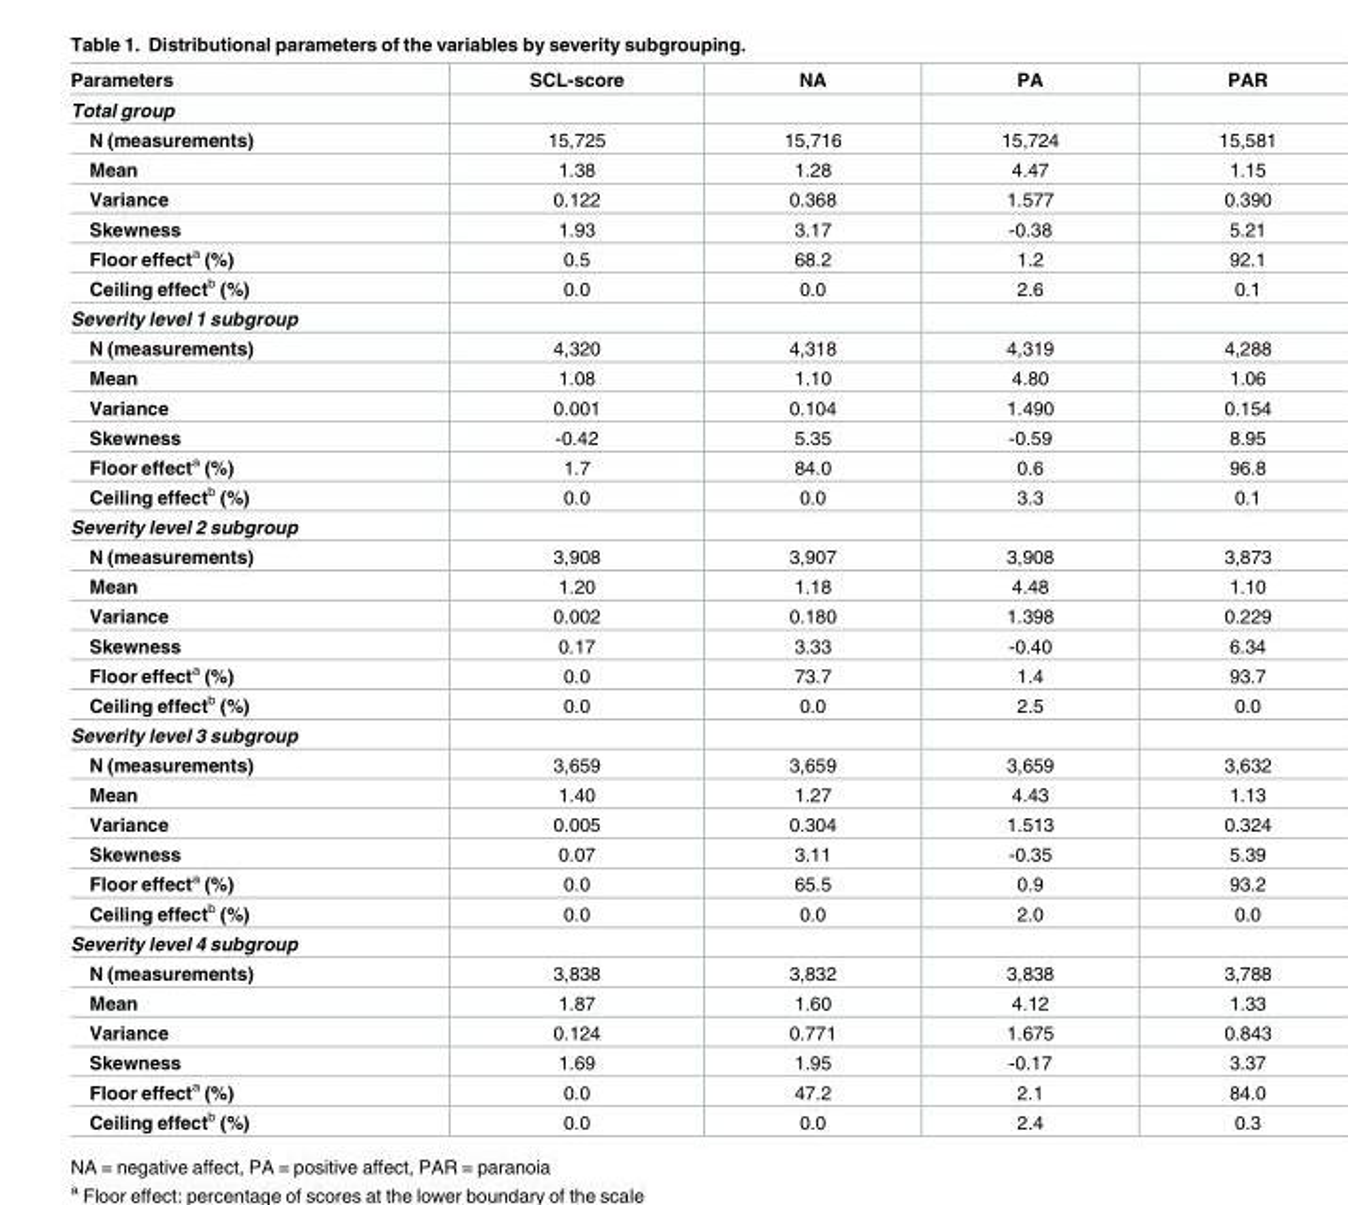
<table><thead><tr><td>Parameters</td><td>SCL-score</td><td>NA</td><td>PA</td><td>PAR</td></tr></thead><tbody><tr><td colspan="5">Total group</td></tr><tr><td>N (measurements)</td><td>15,725</td><td>15,716</td><td>15,724</td><td>15,581</td></tr><tr><td>Mean</td><td>1.38</td><td>1.28</td><td>4.47</td><td>1.15</td></tr><tr><td>Variance</td><td>0.122</td><td>0.368</td><td>1.577</td><td>0.390</td></tr><tr><td>Skewness</td><td>1.93</td><td>3.17</td><td>-0.38</td><td>5.21</td></tr><tr><td>Floor effect<sup>a</sup> (%)</td><td>0.5</td><td>68.2</td><td>1.2</td><td>92.1</td></tr><tr><td>Ceiling effect<sup>b</sup> (%)</td><td>0.0</td><td>0.0</td><td>2.6</td><td>0.1</td></tr><tr><td colspan="5">Severity level 1 subgroup</td></tr><tr><td>N (measurements)</td><td>4,320</td><td>4,318</td><td>4,319</td><td>4,288</td></tr><tr><td>Mean</td><td>1.08</td><td>1.10</td><td>4.80</td><td>1.06</td></tr><tr><td>Variance</td><td>0.001</td><td>0.104</td><td>1.490</td><td>0.154</td></tr><tr><td>Skewness</td><td>-0.42</td><td>5.35</td><td>-0.59</td><td>8.95</td></tr><tr><td>Floor effect<sup>a</sup> (%)</td><td>1.7</td><td>84.0</td><td>0.6</td><td>96.8</td></tr><tr><td>Ceiling effect<sup>b</sup> (%)</td><td>0.0</td><td>0.0</td><td>3.3</td><td>0.1</td></tr><tr><td colspan="5">Severity level 2 subgroup</td></tr><tr><td>N (measurements)</td><td>3,908</td><td>3,907</td><td>3,908</td><td>3,873</td></tr><tr><td>Mean</td><td>1.20</td><td>1.18</td><td>4.48</td><td>1.10</td></tr><tr><td>Variance</td><td>0.002</td><td>0.180</td><td>1.398</td><td>0.229</td></tr><tr><td>Skewness</td><td>0.17</td><td>3.33</td><td>-0.40</td><td>6.34</td></tr><tr><td>Floor effect<sup>a</sup> (%)</td><td>0.0</td><td>73.7</td><td>1.4</td><td>93.7</td></tr><tr><td>Ceiling effect<sup>b</sup> (%)</td><td>0.0</td><td>0.0</td><td>2.5</td><td>0.0</td></tr><tr><td colspan="5">Severity level 3 subgroup</td></tr><tr><td>N (measurements)</td><td>3,659</td><td>3,659</td><td>3,659</td><td>3,632</td></tr><tr><td>Mean</td><td>1.40</td><td>1.27</td><td>4.43</td><td>1.13</td></tr><tr><td>Variance</td><td>0.005</td><td>0.304</td><td>1.513</td><td>0.324</td></tr><tr><td>Skewness</td><td>0.07</td><td>3.11</td><td>-0.35</td><td>5.39</td></tr><tr><td>Floor effect<sup>a</sup> (%)</td><td>0.0</td><td>65.5</td><td>0.9</td><td>93.2</td></tr><tr><td>Ceiling effect<sup>b</sup> (%)</td><td>0.0</td><td>0.0</td><td>2.0</td><td>0.0</td></tr><tr><td colspan="5">Severity level 4 subgroup</td></tr><tr><td>N (measurements)</td><td>3,838</td><td>3,832</td><td>3,838</td><td>3,788</td></tr><tr><td>Mean</td><td>1.87</td><td>1.60</td><td>4.12</td><td>1.33</td></tr><tr><td>Variance</td><td>0.124</td><td>0.771</td><td>1.675</td><td>0.843</td></tr><tr><td>Skewness</td><td>1.69</td><td>1.95</td><td>-0.17</td><td>3.37</td></tr><tr><td>Floor effect<sup>a</sup> (%)</td><td>0.0</td><td>47.2</td><td>2.1</td><td>84.0</td></tr><tr><td>Ceiling effect<sup>b</sup> (%)</td><td>0.0</td><td>0.0</td><td>2.4</td><td>0.3</td></tr></tbody></table>